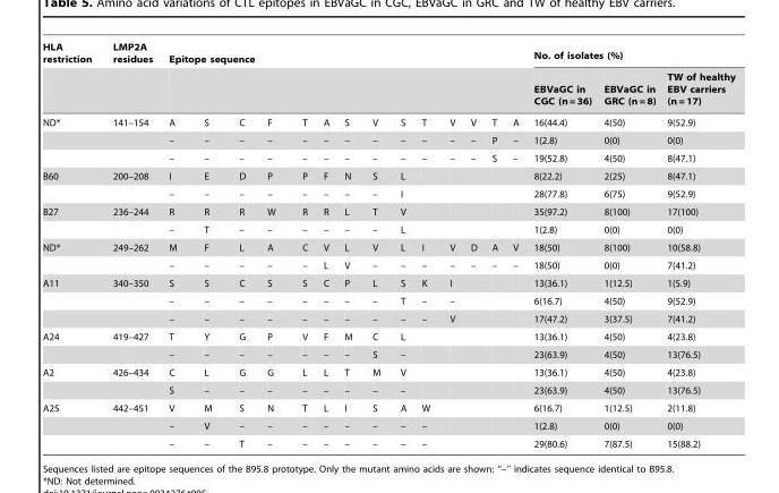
<table><thead><tr><td rowspan="2">HLA restriction</td><td rowspan="2">LMP2A residues</td><td colspan="14">Epitope sequence</td><td colspan="3">No. of isolates (%)</td></tr><tr><td></td><td></td><td></td><td></td><td></td><td></td><td></td><td></td><td></td><td></td><td></td><td></td><td></td><td></td><td>EBVaGC in CGC (n = 36)</td><td>EBVaGC in GRC (n = 8)</td><td>TW of healthy EBV carriers (n = 17)</td></tr></thead><tbody><tr><td rowspan="3">ND*</td><td>141–154</td><td>A</td><td>S</td><td>C</td><td>F</td><td>T</td><td>A</td><td>S</td><td>V</td><td>S</td><td>T</td><td>V</td><td>V</td><td>T</td><td>A</td><td>16(44.4)</td><td>4(50)</td><td>9(52.9)</td></tr><tr><td></td><td>–</td><td>–</td><td>–</td><td>–</td><td>–</td><td>–</td><td>–</td><td>–</td><td>–</td><td>–</td><td>–</td><td>–</td><td>P</td><td>–</td><td>1(2.8)</td><td>0(0)</td><td>0(0)</td></tr><tr><td></td><td>–</td><td>–</td><td>–</td><td>–</td><td>–</td><td>–</td><td>–</td><td>–</td><td>–</td><td>–</td><td>–</td><td>–</td><td>S</td><td>–</td><td>19(52.8)</td><td>4(50)</td><td>8(47.1)</td></tr><tr><td rowspan="2">B60</td><td>200–208</td><td>I</td><td>E</td><td>D</td><td>P</td><td>P</td><td>F</td><td>N</td><td>S</td><td>L</td><td></td><td></td><td></td><td></td><td></td><td>8(22.2)</td><td>2(25)</td><td>8(47.1)</td></tr><tr><td></td><td>–</td><td>–</td><td>–</td><td>–</td><td>–</td><td>–</td><td>–</td><td>–</td><td>I</td><td></td><td></td><td></td><td></td><td></td><td>28(77.8)</td><td>6(75)</td><td>9(52.9)</td></tr><tr><td rowspan="2">B27</td><td>236–244</td><td>R</td><td>R</td><td>R</td><td>W</td><td>R</td><td>R</td><td>L</td><td>T</td><td>V</td><td></td><td></td><td></td><td></td><td></td><td>35(97.2)</td><td>8(100)</td><td>17(100)</td></tr><tr><td></td><td>–</td><td>T</td><td>–</td><td>–</td><td>–</td><td>–</td><td>–</td><td>–</td><td>L</td><td></td><td></td><td></td><td></td><td></td><td>1(2.8)</td><td>0(0)</td><td>0(0)</td></tr><tr><td rowspan="2">ND*</td><td>249–262</td><td>M</td><td>F</td><td>L</td><td>A</td><td>C</td><td>V</td><td>L</td><td>V</td><td>L</td><td>I</td><td>V</td><td>D</td><td>A</td><td>V</td><td>18(50)</td><td>8(100)</td><td>10(58.8)</td></tr><tr><td></td><td>–</td><td>–</td><td>–</td><td>–</td><td>–</td><td>L</td><td>V</td><td>–</td><td>–</td><td>–</td><td>–</td><td>–</td><td>–</td><td>–</td><td>18(50)</td><td>0(0)</td><td>7(41.2)</td></tr><tr><td rowspan="3">A11</td><td>340–350</td><td>S</td><td>S</td><td>C</td><td>S</td><td>S</td><td>C</td><td>P</td><td>L</td><td>S</td><td>K</td><td>I</td><td></td><td></td><td></td><td>13(36.1)</td><td>1(12.5)</td><td>1(5.9)</td></tr><tr><td></td><td>–</td><td>–</td><td>–</td><td>–</td><td>–</td><td>–</td><td>–</td><td>–</td><td>T</td><td>–</td><td>–</td><td></td><td></td><td></td><td>6(16.7)</td><td>4(50)</td><td>9(52.9)</td></tr><tr><td></td><td>–</td><td>–</td><td>–</td><td>–</td><td>–</td><td>–</td><td>–</td><td>–</td><td>–</td><td>–</td><td>V</td><td></td><td></td><td></td><td>17(47.2)</td><td>3(37.5)</td><td>7(41.2)</td></tr><tr><td rowspan="2">A24</td><td>419–427</td><td>T</td><td>Y</td><td>G</td><td>P</td><td>V</td><td>F</td><td>M</td><td>C</td><td>L</td><td></td><td></td><td></td><td></td><td></td><td>13(36.1)</td><td>4(50)</td><td>4(23.8)</td></tr><tr><td></td><td>–</td><td>–</td><td>–</td><td>–</td><td>–</td><td>–</td><td>–</td><td>S</td><td>–</td><td></td><td></td><td></td><td></td><td></td><td>23(63.9)</td><td>4(50)</td><td>13(76.5)</td></tr><tr><td rowspan="2">A2</td><td>426–434</td><td>C</td><td>L</td><td>G</td><td>G</td><td>L</td><td>L</td><td>T</td><td>M</td><td>V</td><td></td><td></td><td></td><td></td><td></td><td>13(36.1)</td><td>4(50)</td><td>4(23.8)</td></tr><tr><td></td><td>S</td><td>–</td><td>–</td><td>–</td><td>–</td><td>–</td><td>–</td><td>–</td><td>–</td><td></td><td></td><td></td><td></td><td></td><td>23(63.9)</td><td>4(50)</td><td>13(76.5)</td></tr><tr><td rowspan="3">A25</td><td>442–451</td><td>V</td><td>M</td><td>S</td><td>N</td><td>T</td><td>L</td><td>I</td><td>S</td><td>A</td><td>W</td><td></td><td></td><td></td><td></td><td>6(16.7)</td><td>1(12.5)</td><td>2(11.8)</td></tr><tr><td></td><td>–</td><td>V</td><td>–</td><td>–</td><td>–</td><td>–</td><td>–</td><td>–</td><td>–</td><td>–</td><td></td><td></td><td></td><td></td><td>1(2.8)</td><td>0(0)</td><td>0(0)</td></tr><tr><td></td><td>–</td><td>–</td><td>T</td><td>–</td><td>–</td><td>–</td><td>–</td><td>–</td><td>–</td><td>–</td><td></td><td></td><td></td><td></td><td>29(80.6)</td><td>7(87.5)</td><td>15(88.2)</td></tr></tbody></table>